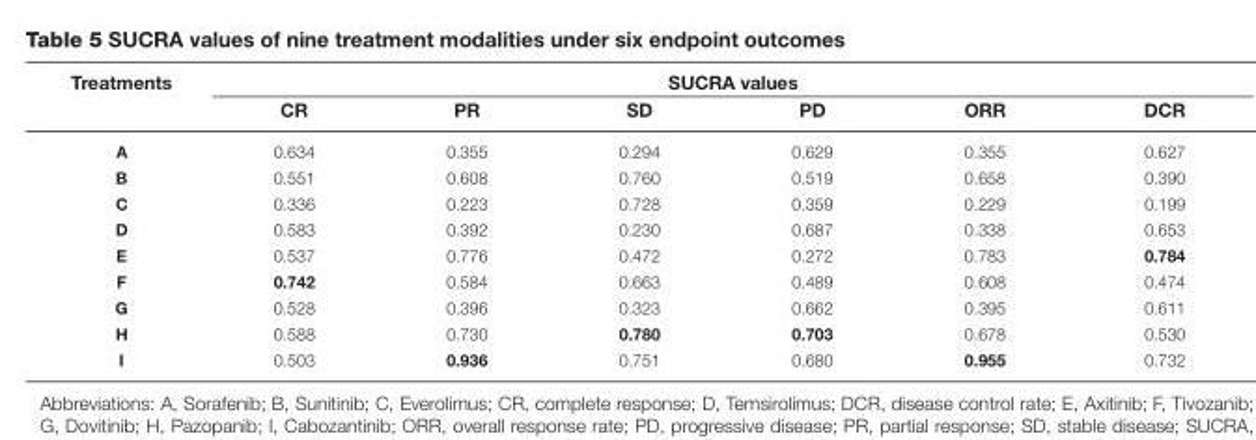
<table><thead><tr><td rowspan="2">Treatments</td><td colspan="6">SUCRA values</td></tr><tr><td>CR</td><td>PR</td><td>SD</td><td>PD</td><td>ORR</td><td>DCR</td></tr></thead><tbody><tr><td>A</td><td>0.634</td><td>0.355</td><td>0.294</td><td>0.629</td><td>0.355</td><td>0.627</td></tr><tr><td>B</td><td>0.551</td><td>0.608</td><td>0.760</td><td>0.519</td><td>0.658</td><td>0.390</td></tr><tr><td>C</td><td>0.336</td><td>0.223</td><td>0.728</td><td>0.359</td><td>0.229</td><td>0.199</td></tr><tr><td>D</td><td>0.583</td><td>0.392</td><td>0.230</td><td>0.687</td><td>0.338</td><td>0.653</td></tr><tr><td>E</td><td>0.537</td><td>0.776</td><td>0.472</td><td>0.272</td><td>0.783</td><td>0.784</td></tr><tr><td>F</td><td>0.742</td><td>0.584</td><td>0.663</td><td>0.489</td><td>0.608</td><td>0.474</td></tr><tr><td>G</td><td>0.528</td><td>0.396</td><td>0.323</td><td>0.662</td><td>0.395</td><td>0.611</td></tr><tr><td>H</td><td>0.588</td><td>0.730</td><td>0.780</td><td>0.703</td><td>0.678</td><td>0.530</td></tr><tr><td>I</td><td>0.503</td><td>0.936</td><td>0.751</td><td>0.680</td><td>0.955</td><td>0.732</td></tr></tbody></table>